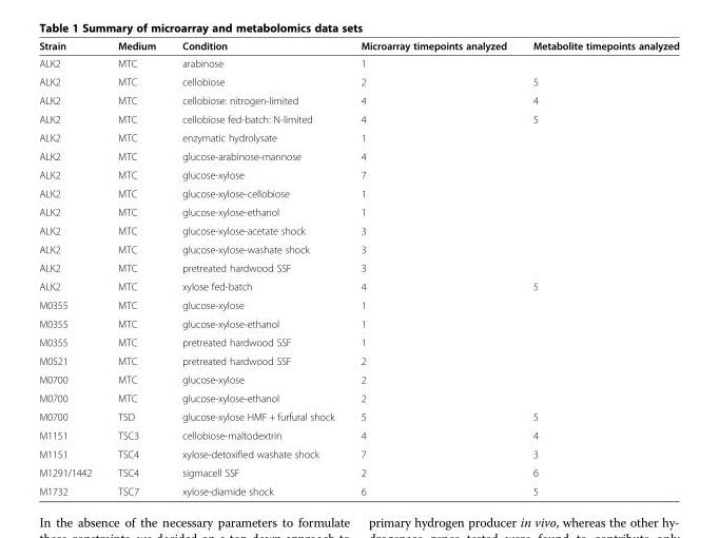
<table><thead><tr><td>Strain</td><td>Medium</td><td>Condition</td><td>Microarray timepoints analyzed</td><td>Metabolite timepoints analyzed</td></tr></thead><tbody><tr><td>ALK2</td><td>MTC</td><td>arabinose</td><td>1</td><td></td></tr><tr><td>ALK2</td><td>MTC</td><td>cellobiose</td><td>2</td><td>5</td></tr><tr><td>ALK2</td><td>MTC</td><td>cellobiose: nitrogen-limited</td><td>4</td><td>4</td></tr><tr><td>ALK2</td><td>MTC</td><td>cellobiose fed-batch: N-limited</td><td>4</td><td>5</td></tr><tr><td>ALK2</td><td>MTC</td><td>enzymatic hydrolysate</td><td>1</td><td></td></tr><tr><td>ALK2</td><td>MTC</td><td>glucose-arabinose-mannose</td><td>4</td><td></td></tr><tr><td>ALK2</td><td>MTC</td><td>glucose-xylose</td><td>7</td><td></td></tr><tr><td>ALK2</td><td>MTC</td><td>glucose-xylose-cellobiose</td><td>1</td><td></td></tr><tr><td>ALK2</td><td>MTC</td><td>glucose-xylose-ethanol</td><td>1</td><td></td></tr><tr><td>ALK2</td><td>MTC</td><td>glucose-xylose-acetate shock</td><td>3</td><td></td></tr><tr><td>ALK2</td><td>MTC</td><td>glucose-xylose-washate shock</td><td>3</td><td></td></tr><tr><td>ALK2</td><td>MTC</td><td>pretreated hardwood SSF</td><td>3</td><td></td></tr><tr><td>ALK2</td><td>MTC</td><td>xylose fed-batch</td><td>4</td><td>5</td></tr><tr><td>M0355</td><td>MTC</td><td>glucose-xylose</td><td>1</td><td></td></tr><tr><td>M0355</td><td>MTC</td><td>glucose-xylose-ethanol</td><td>1</td><td></td></tr><tr><td>M0355</td><td>MTC</td><td>pretreated hardwood SSF</td><td>1</td><td></td></tr><tr><td>M0521</td><td>MTC</td><td>pretreated hardwood SSF</td><td>2</td><td></td></tr><tr><td>M0700</td><td>MTC</td><td>glucose-xylose</td><td>2</td><td></td></tr><tr><td>M0700</td><td>MTC</td><td>glucose-xylose-ethanol</td><td>2</td><td></td></tr><tr><td>M0700</td><td>TSD</td><td>glucose-xylose HMF + furfural shock</td><td>5</td><td>5</td></tr><tr><td>M1151</td><td>TSC3</td><td>cellobiose-maltodextrin</td><td>4</td><td>4</td></tr><tr><td>M1151</td><td>TSC4</td><td>xylose-detoxified washate shock</td><td>7</td><td>3</td></tr><tr><td>M1291/1442</td><td>TSC4</td><td>sigmacell SSF</td><td>2</td><td>6</td></tr><tr><td>M1732</td><td>TSC7</td><td>xylose-diamide shock</td><td>6</td><td>5</td></tr></tbody></table>